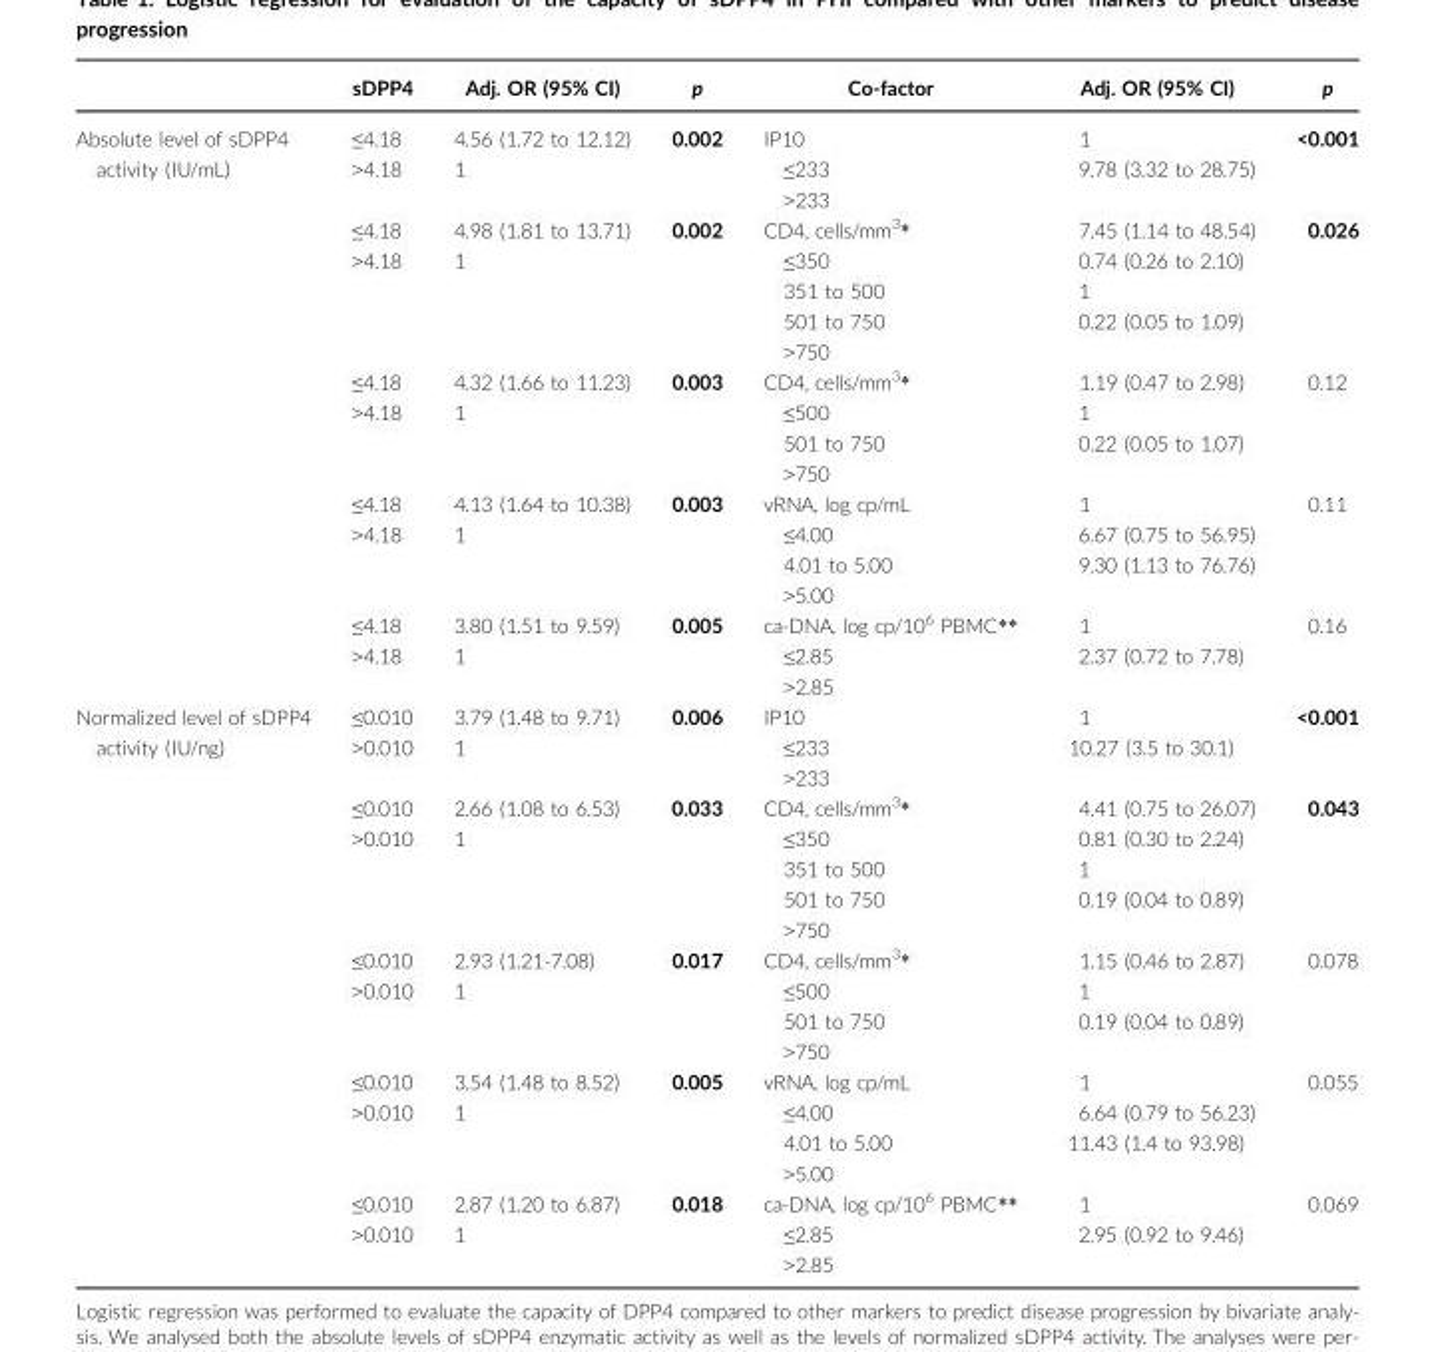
<table><thead><tr><td></td><td>sDPP4</td><td>Adj. OR (95% CI)</td><td>p</td><td>Co-factor</td><td>Adj. OR (95% CI)</td><td>p</td></tr></thead><tbody><tr><td rowspan="5">Absolute level of sDPP4 activity (IU/mL)</td><td>≤4.18 &gt;4.18</td><td>4.56 (1.72 to 12.12) 1</td><td>0.002</td><td>IP10 ≤233 &gt;233</td><td>1 9.78 (3.32 to 28.75)</td><td>&lt;0.001</td></tr><tr><td>≤4.18 &gt;4.18</td><td>4.98 (1.81 to 13.71) 1</td><td>0.002</td><td>CD4, cells/mm<sup>3</sup>* ≤350 351 to 500 501 to 750 &gt;750</td><td>7.45 (1.14 to 48.54) 0.74 (0.26 to 2.10) 1 0.22 (0.05 to 1.09)</td><td>0.026</td></tr><tr><td>≤4.18 &gt;4.18</td><td>4.32 (1.66 to 11.23) 1</td><td>0.003</td><td>CD4, cells/mm<sup>3</sup>* ≤500 501 to 750 &gt;750</td><td>1.19 (0.47 to 2.98) 1 0.22 (0.05 to 1.07)</td><td>0.12</td></tr><tr><td>≤4.18 &gt;4.18</td><td>4.13 (1.64 to 10.38) 1</td><td>0.003</td><td>vRNA, log cp/mL ≤4.00 4.01 to 5.00 &gt;5.00</td><td>1 6.67 (0.75 to 56.95) 9.30 (1.13 to 76.76)</td><td>0.11</td></tr><tr><td>≤4.18 &gt;4.18</td><td>3.80 (1.51 to 9.59) 1</td><td>0.005</td><td>ca-DNA, log cp/10<sup>6</sup> PBMC** ≤2.85 &gt;2.85</td><td>1 2.37 (0.72 to 7.78)</td><td>0.16</td></tr><tr><td rowspan="5">Normalized level of sDPP4 activity (IU/ng)</td><td>≤0.010 &gt;0.010</td><td>3.79 (1.48 to 9.71) 1</td><td>0.006</td><td>IP10 ≤233 &gt;233</td><td>1 10.27 (3.5 to 30.1)</td><td>&lt;0.001</td></tr><tr><td>≤0.010 &gt;0.010</td><td>2.66 (1.08 to 6.53) 1</td><td>0.033</td><td>CD4, cells/mm<sup>3</sup>* ≤350 351 to 500 501 to 750 &gt;750</td><td>4.41 (0.75 to 26.07) 0.81 (0.30 to 2.24) 1 0.19 (0.04 to 0.89)</td><td>0.043</td></tr><tr><td>≤0.010 &gt;0.010</td><td>2.93 (1.21-7.08) 1</td><td>0.017</td><td>CD4, cells/mm<sup>3</sup>* ≤500 501 to 750 &gt;750</td><td>1.15 (0.46 to 2.87) 1 0.19 (0.04 to 0.89)</td><td>0.078</td></tr><tr><td>≤0.010 &gt;0.010</td><td>3.54 (1.48 to 8.52) 1</td><td>0.005</td><td>vRNA, log cp/mL ≤4.00 4.01 to 5.00 &gt;5.00</td><td>1 6.64 (0.79 to 56.23) 11.43 (1.4 to 93.98)</td><td>0.055</td></tr><tr><td>≤0.010 &gt;0.010</td><td>2.87 (1.20 to 6.87) 1</td><td>0.018</td><td>ca-DNA, log cp/10<sup>6</sup> PBMC** ≤2.85 &gt;2.85</td><td>1 2.95 (0.92 to 9.46)</td><td>0.069</td></tr></tbody></table>